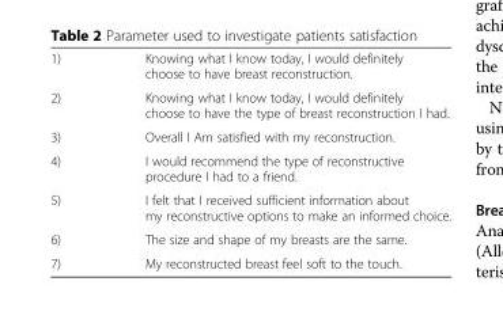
<table><tbody><tr><td>1)</td><td>Knowing what I know today, I would definitely choose to have breast reconstruction.</td></tr><tr><td>2)</td><td>Knowing what I know today, I would definitely choose to have the type of breast reconstruction I had.</td></tr><tr><td>3)</td><td>Overall I Am satisfied with my reconstruction.</td></tr><tr><td>4)</td><td>I would recommend the type of reconstructive procedure I had to a friend.</td></tr><tr><td>5)</td><td>I felt that I received sufficient information about my reconstructive options to make an informed choice.</td></tr><tr><td>6)</td><td>The size and shape of my breasts are the same.</td></tr><tr><td>7)</td><td>My reconstructed breast feel soft to the touch.</td></tr></tbody></table>